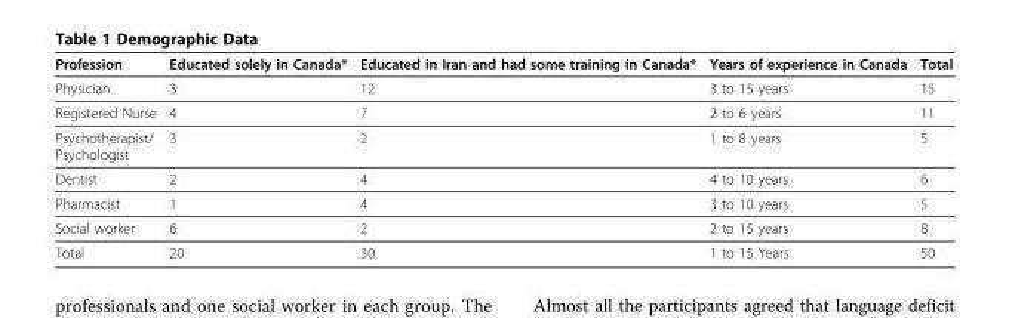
<table><thead><tr><td>Profession</td><td>Educated solely in Canada*</td><td>Educated in Iran and had some training in Canada*</td><td>Years of experience in Canada</td><td>Total</td></tr></thead><tbody><tr><td>Physician</td><td>3</td><td>12</td><td>3 to 15 years</td><td>15</td></tr><tr><td>Registered Nurse</td><td>4</td><td>7</td><td>2 to 6 years</td><td>11</td></tr><tr><td>Psychotherapist/ Psychologist</td><td>3</td><td>2</td><td>1 to 8 years</td><td>5</td></tr><tr><td>Dentist</td><td>2</td><td>4</td><td>4 to 10 years</td><td>6</td></tr><tr><td>Pharmacist</td><td>1</td><td>4</td><td>3 to 10 years</td><td>5</td></tr><tr><td>Social worker</td><td>6</td><td>2</td><td>2 to 15 years</td><td>8</td></tr><tr><td>Total</td><td>20</td><td>30</td><td>1 to 15 Years</td><td>50</td></tr></tbody></table>